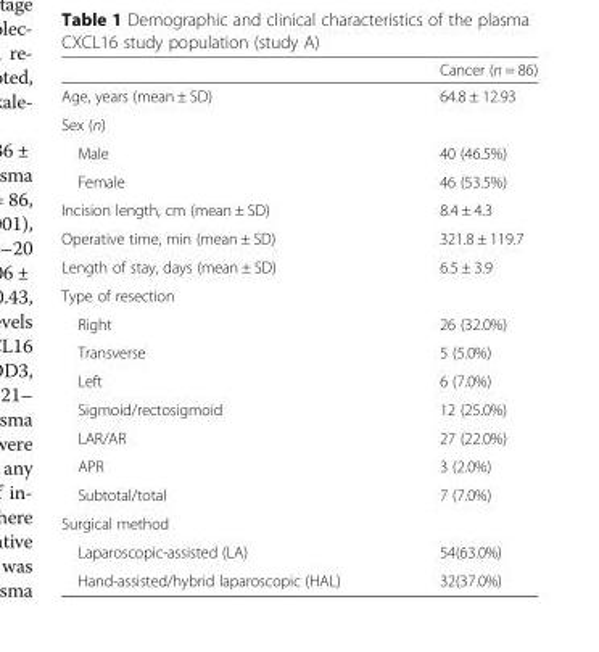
<table><thead><tr><td></td><td>Cancer (n = 86)</td></tr></thead><tbody><tr><td>Age, years (mean ± SD)</td><td>64.8 ± 12.93</td></tr><tr><td colspan="2">Sex (n)</td></tr><tr><td>Male</td><td>40 (46.5%)</td></tr><tr><td>Female</td><td>46 (53.5%)</td></tr><tr><td>Incision length, cm (mean ± SD)</td><td>8.4 ± 4.3</td></tr><tr><td>Operative time, min (mean ± SD)</td><td>321.8 ± 119.7</td></tr><tr><td>Length of stay, days (mean ± SD)</td><td>6.5 ± 3.9</td></tr><tr><td colspan="2">Type of resection</td></tr><tr><td>Right</td><td>26 (32.0%)</td></tr><tr><td>Transverse</td><td>5 (5.0%)</td></tr><tr><td>Left</td><td>6 (7.0%)</td></tr><tr><td>Sigmoid/rectosigmoid</td><td>12 (25.0%)</td></tr><tr><td>LAR/AR</td><td>27 (22.0%)</td></tr><tr><td>APR</td><td>3 (2.0%)</td></tr><tr><td>Subtotal/total</td><td>7 (7.0%)</td></tr><tr><td colspan="2">Surgical method</td></tr><tr><td>Laparoscopic-assisted (LA)</td><td>54(63.0%)</td></tr><tr><td>Hand-assisted/hybrid laparoscopic (HAL)</td><td>32(37.0%)</td></tr></tbody></table>